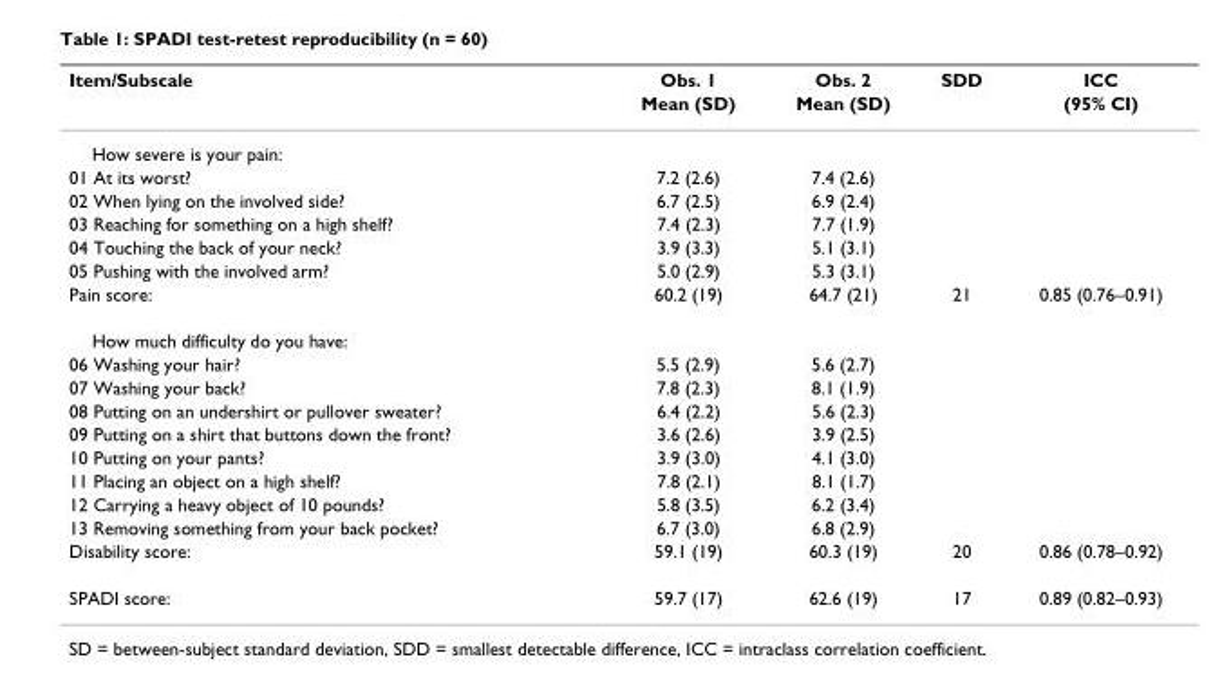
<table><thead><tr><td rowspan="2">Item/Subscale</td><td rowspan="2">Obs. 1 Mean (SD)</td><td rowspan="2">Obs. 2 Mean (SD)</td><td rowspan="2">SDD</td><td rowspan="2">ICC (95% CI)</td></tr><tr></tr></thead><tbody><tr><td colspan="5">How severe is your pain:</td></tr><tr><td>01 At its worst?</td><td>7.2 (2.6)</td><td>7.4 (2.6)</td><td></td><td></td></tr><tr><td>02 When lying on the involved side?</td><td>6.7 (2.5)</td><td>6.9 (2.4)</td><td></td><td></td></tr><tr><td>03 Reaching for something on a high shelf?</td><td>7.4 (2.3)</td><td>7.7 (1.9)</td><td></td><td></td></tr><tr><td>04 Touching the back of your neck?</td><td>3.9 (3.3)</td><td>5.1 (3.1)</td><td></td><td></td></tr><tr><td>05 Pushing with the involved arm?</td><td>5.0 (2.9)</td><td>5.3 (3.1)</td><td></td><td></td></tr><tr><td>Pain score:</td><td>60.2 (19)</td><td>64.7 (21)</td><td>21</td><td>0.85 (0.76–0.91)</td></tr><tr><td colspan="5">How much difficulty do you have:</td></tr><tr><td>06 Washing your hair?</td><td>5.5 (2.9)</td><td>5.6 (2.7)</td><td></td><td></td></tr><tr><td>07 Washing your back?</td><td>7.8 (2.3)</td><td>8.1 (1.9)</td><td></td><td></td></tr><tr><td>08 Putting on an undershirt or pullover sweater?</td><td>6.4 (2.2)</td><td>5.6 (2.3)</td><td></td><td></td></tr><tr><td>09 Putting on a shirt that buttons down the front?</td><td>3.6 (2.6)</td><td>3.9 (2.5)</td><td></td><td></td></tr><tr><td>10 Putting on your pants?</td><td>3.9 (3.0)</td><td>4.1 (3.0)</td><td></td><td></td></tr><tr><td>11 Placing an object on a high shelf?</td><td>7.8 (2.1)</td><td>8.1 (1.7)</td><td></td><td></td></tr><tr><td>12 Carrying a heavy object of 10 pounds?</td><td>5.8 (3.5)</td><td>6.2 (3.4)</td><td></td><td></td></tr><tr><td>13 Removing something from your back pocket?</td><td>6.7 (3.0)</td><td>6.8 (2.9)</td><td></td><td></td></tr><tr><td>Disability score:</td><td>59.1 (19)</td><td>60.3 (19)</td><td>20</td><td>0.86 (0.78–0.92)</td></tr><tr><td>SPADI score:</td><td>59.7 (17)</td><td>62.6 (19)</td><td>17</td><td>0.89 (0.82–0.93)</td></tr></tbody></table>